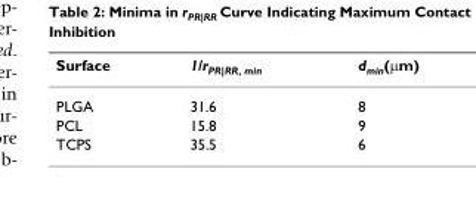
<table><thead><tr><td>Surface</td><td>1/r<sub>PR|RR, min</sub></td><td>d<sub>min</sub>(μm)</td></tr></thead><tbody><tr><td>PLGA</td><td>31.6</td><td>8</td></tr><tr><td>PCL</td><td>15.8</td><td>9</td></tr><tr><td>TCPS</td><td>35.5</td><td>6</td></tr></tbody></table>